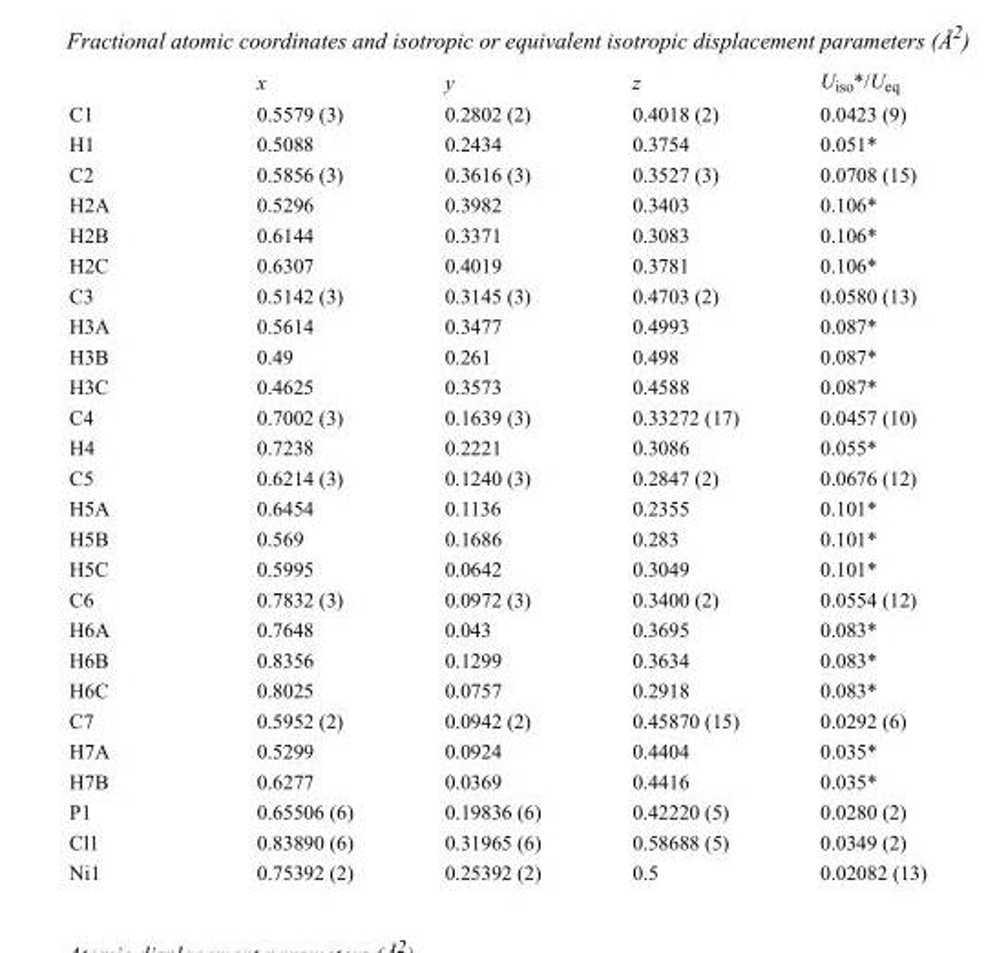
<table><thead><tr><td></td><td>x</td><td>y</td><td>z</td><td>U<sub>iso</sub>*/U<sub>eq</sub></td></tr></thead><tbody><tr><td>C1</td><td>0.5579 (3)</td><td>0.2802 (2)</td><td>0.4018 (2)</td><td>0.0423 (9)</td></tr><tr><td>H1</td><td>0.5088</td><td>0.2434</td><td>0.3754</td><td>0.051*</td></tr><tr><td>C2</td><td>0.5856 (3)</td><td>0.3616 (3)</td><td>0.3527 (3)</td><td>0.0708 (15)</td></tr><tr><td>H2A</td><td>0.5296</td><td>0.3982</td><td>0.3403</td><td>0.106*</td></tr><tr><td>H2B</td><td>0.6144</td><td>0.3371</td><td>0.3083</td><td>0.106*</td></tr><tr><td>H2C</td><td>0.6307</td><td>0.4019</td><td>0.3781</td><td>0.106*</td></tr><tr><td>C3</td><td>0.5142 (3)</td><td>0.3145 (3)</td><td>0.4703 (2)</td><td>0.0580 (13)</td></tr><tr><td>H3A</td><td>0.5614</td><td>0.3477</td><td>0.4993</td><td>0.087*</td></tr><tr><td>H3B</td><td>0.49</td><td>0.261</td><td>0.498</td><td>0.087*</td></tr><tr><td>H3C</td><td>0.4625</td><td>0.3573</td><td>0.4588</td><td>0.087*</td></tr><tr><td>C4</td><td>0.7002 (3)</td><td>0.1639 (3)</td><td>0.33272 (17)</td><td>0.0457 (10)</td></tr><tr><td>H4</td><td>0.7238</td><td>0.2221</td><td>0.3086</td><td>0.055*</td></tr><tr><td>C5</td><td>0.6214 (3)</td><td>0.1240 (3)</td><td>0.2847 (2)</td><td>0.0676 (12)</td></tr><tr><td>H5A</td><td>0.6454</td><td>0.1136</td><td>0.2355</td><td>0.101*</td></tr><tr><td>H5B</td><td>0.569</td><td>0.1686</td><td>0.283</td><td>0.101*</td></tr><tr><td>H5C</td><td>0.5995</td><td>0.0642</td><td>0.3049</td><td>0.101*</td></tr><tr><td>C6</td><td>0.7832 (3)</td><td>0.0972 (3)</td><td>0.3400 (2)</td><td>0.0554 (12)</td></tr><tr><td>H6A</td><td>0.7648</td><td>0.043</td><td>0.3695</td><td>0.083*</td></tr><tr><td>H6B</td><td>0.8356</td><td>0.1299</td><td>0.3634</td><td>0.083*</td></tr><tr><td>H6C</td><td>0.8025</td><td>0.0757</td><td>0.2918</td><td>0.083*</td></tr><tr><td>C7</td><td>0.5952 (2)</td><td>0.0942 (2)</td><td>0.45870 (15)</td><td>0.0292 (6)</td></tr><tr><td>H7A</td><td>0.5299</td><td>0.0924</td><td>0.4404</td><td>0.035*</td></tr><tr><td>H7B</td><td>0.6277</td><td>0.0369</td><td>0.4416</td><td>0.035*</td></tr><tr><td>P1</td><td>0.65506 (6)</td><td>0.19836 (6)</td><td>0.42220 (5)</td><td>0.0280 (2)</td></tr><tr><td>Cl1</td><td>0.83890 (6)</td><td>0.31965 (6)</td><td>0.58688 (5)</td><td>0.0349 (2)</td></tr><tr><td>Ni1</td><td>0.75392 (2)</td><td>0.25392 (2)</td><td>0.5</td><td>0.02082 (13)</td></tr></tbody></table>